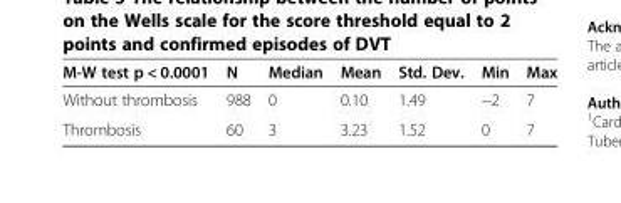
<table><thead><tr><td>M-W test p &lt; 0.0001</td><td>N</td><td>Median</td><td>Mean</td><td>Std. Dev.</td><td>Min</td><td>Max</td></tr></thead><tbody><tr><td>Without thrombosis</td><td>988</td><td>0</td><td>0.10</td><td>1.49</td><td>−2</td><td>7</td></tr><tr><td>Thrombosis</td><td>60</td><td>3</td><td>3.23</td><td>1.52</td><td>0</td><td>7</td></tr></tbody></table>